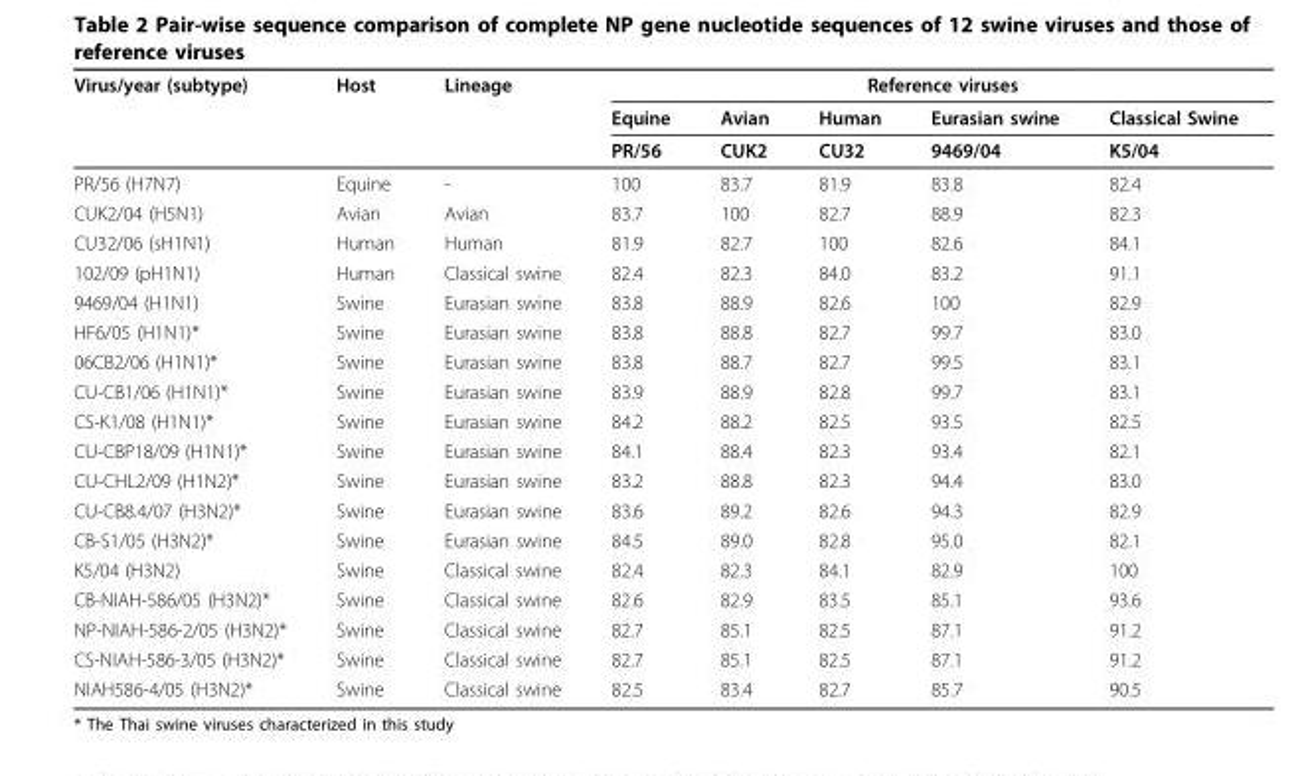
<table><thead><tr><td rowspan="3">Virus/year (subtype)</td><td rowspan="3">Host</td><td rowspan="3">Lineage</td><td colspan="5">Reference viruses</td></tr><tr><td rowspan="2">Equine PR/56</td><td rowspan="2">Avian CUK2</td><td rowspan="2">Human CU32</td><td rowspan="2">Eurasian swine 9469/04</td><td rowspan="2">Classical Swine K5/04</td></tr><tr></tr></thead><tbody><tr><td>PR/56 (H7N7)</td><td>Equine</td><td>-</td><td>100</td><td>83.7</td><td>81.9</td><td>83.8</td><td>82.4</td></tr><tr><td>CUK2/04 (H5N1)</td><td>Avian</td><td>Avian</td><td>83.7</td><td>100</td><td>82.7</td><td>88.9</td><td>82.3</td></tr><tr><td>CU32/06 (sH1N1)</td><td>Human</td><td>Human</td><td>81.9</td><td>82.7</td><td>100</td><td>82.6</td><td>84.1</td></tr><tr><td>102/09 (pH1N1)</td><td>Human</td><td>Classical swine</td><td>82.4</td><td>82.3</td><td>84.0</td><td>83.2</td><td>91.1</td></tr><tr><td>9469/04 (H1N1)</td><td>Swine</td><td>Eurasian swine</td><td>83.8</td><td>88.9</td><td>82.6</td><td>100</td><td>82.9</td></tr><tr><td>HF6/05 (H1N1)*</td><td>Swine</td><td>Eurasian swine</td><td>83.8</td><td>88.8</td><td>82.7</td><td>99.7</td><td>83.0</td></tr><tr><td>06CB2/06 (H1N1)*</td><td>Swine</td><td>Eurasian swine</td><td>83.8</td><td>88.7</td><td>82.7</td><td>99.5</td><td>83.1</td></tr><tr><td>CU-CB1/06 (H1N1)*</td><td>Swine</td><td>Eurasian swine</td><td>83.9</td><td>88.9</td><td>82.8</td><td>99.7</td><td>83.1</td></tr><tr><td>CS-K1/08 (H1N1)*</td><td>Swine</td><td>Eurasian swine</td><td>84.2</td><td>88.2</td><td>82.5</td><td>93.5</td><td>82.5</td></tr><tr><td>CU-CBP18/09 (H1N1)*</td><td>Swine</td><td>Eurasian swine</td><td>84.1</td><td>88.4</td><td>82.3</td><td>93.4</td><td>82.1</td></tr><tr><td>CU-CHL2/09 (H1N2)*</td><td>Swine</td><td>Eurasian swine</td><td>83.2</td><td>88.8</td><td>82.3</td><td>94.4</td><td>83.0</td></tr><tr><td>CU-CB8.4/07 (H3N2)*</td><td>Swine</td><td>Eurasian swine</td><td>83.6</td><td>89.2</td><td>82.6</td><td>94.3</td><td>82.9</td></tr><tr><td>CB-S1/05 (H3N2)*</td><td>Swine</td><td>Eurasian swine</td><td>84.5</td><td>89.0</td><td>82.8</td><td>95.0</td><td>82.1</td></tr><tr><td>K5/04 (H3N2)</td><td>Swine</td><td>Classical swine</td><td>82.4</td><td>82.3</td><td>84.1</td><td>82.9</td><td>100</td></tr><tr><td>CB-NIAH-586/05 (H3N2)*</td><td>Swine</td><td>Classical swine</td><td>82.6</td><td>82.9</td><td>83.5</td><td>85.1</td><td>93.6</td></tr><tr><td>NP-NIAH-586-2/05 (H3N2)*</td><td>Swine</td><td>Classical swine</td><td>82.7</td><td>85.1</td><td>82.5</td><td>87.1</td><td>91.2</td></tr><tr><td>CS-NIAH-586-3/05 (H3N2)*</td><td>Swine</td><td>Classical swine</td><td>82.7</td><td>85.1</td><td>82.5</td><td>87.1</td><td>91.2</td></tr><tr><td>NIAH586-4/05 (H3N2)*</td><td>Swine</td><td>Classical swine</td><td>82.5</td><td>83.4</td><td>82.7</td><td>85.7</td><td>90.5</td></tr></tbody></table>